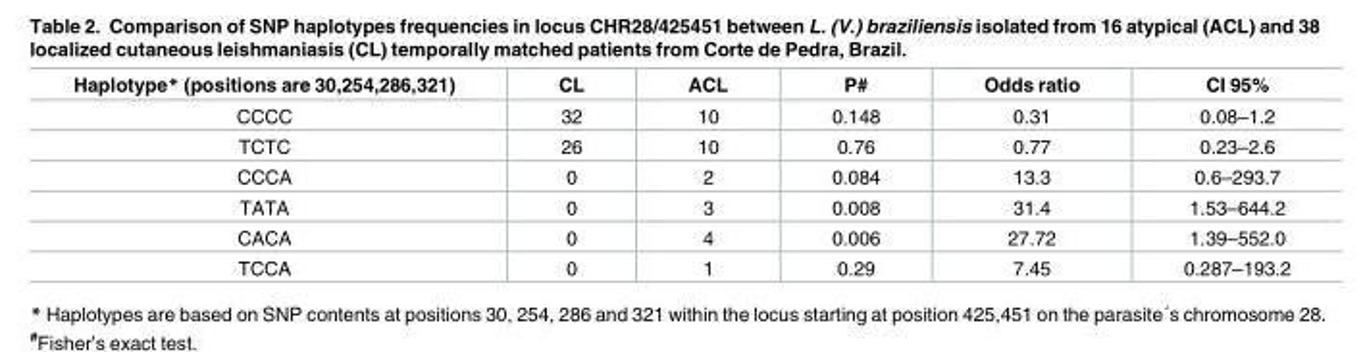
<table><thead><tr><td>Haplotype* (positions are 30,254,286,321)</td><td>CL</td><td>ACL</td><td>P#</td><td>Odds ratio</td><td>CI 95%</td></tr></thead><tbody><tr><td>CCCC</td><td>32</td><td>10</td><td>0.148</td><td>0.31</td><td>0.08–1.2</td></tr><tr><td>TCTC</td><td>26</td><td>10</td><td>0.76</td><td>0.77</td><td>0.23–2.6</td></tr><tr><td>CCCA</td><td>0</td><td>2</td><td>0.084</td><td>13.3</td><td>0.6–293.7</td></tr><tr><td>TATA</td><td>0</td><td>3</td><td>0.008</td><td>31.4</td><td>1.53–644.2</td></tr><tr><td>CACA</td><td>0</td><td>4</td><td>0.006</td><td>27.72</td><td>1.39–552.0</td></tr><tr><td>TCCA</td><td>0</td><td>1</td><td>0.29</td><td>7.45</td><td>0.287–193.2</td></tr></tbody></table>